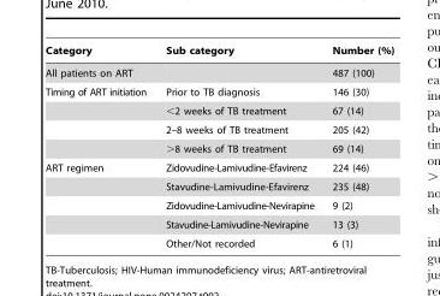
<table><thead><tr><td>Category</td><td>Sub category</td><td>Number (%)</td></tr></thead><tbody><tr><td>All patients on ART</td><td></td><td>487 (100)</td></tr><tr><td rowspan="4">Timing of ART initiation</td><td>Prior to TB diagnosis</td><td>146 (30)</td></tr><tr><td>&lt;2 weeks of TB treatment</td><td>67 (14)</td></tr><tr><td>2–8 weeks of TB treatment</td><td>205 (42)</td></tr><tr><td>&gt;8 weeks of TB treatment</td><td>69 (14)</td></tr><tr><td rowspan="5">ART regimen</td><td>Zidovudine-Lamivudine-Efavirenz</td><td>224 (46)</td></tr><tr><td>Stavudine-Lamivudine-Efavirenz</td><td>235 (48)</td></tr><tr><td>Zidovudine-Lamivudine-Nevirapine</td><td>9 (2)</td></tr><tr><td>Stavudine-Lamivudine-Nevirapine</td><td>13 (3)</td></tr><tr><td>Other/Not recorded</td><td>6 (1)</td></tr></tbody></table>